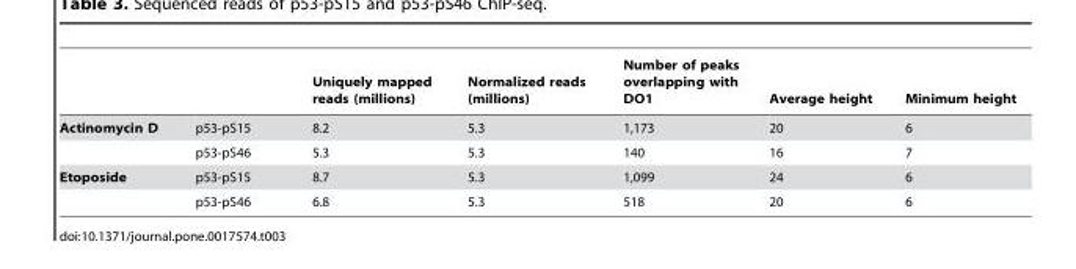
<table><thead><tr><td></td><td></td><td>Uniquely mapped reads (millions)</td><td>Normalized reads (millions)</td><td>Number of peaks overlapping with DO1</td><td>Average height</td><td>Minimum height</td></tr></thead><tbody><tr><td rowspan="2">Actinomycin D</td><td>p53-pS15</td><td>8.2</td><td>5.3</td><td>1,173</td><td>20</td><td>6</td></tr><tr><td>p53-pS46</td><td>5.3</td><td>5.3</td><td>140</td><td>16</td><td>7</td></tr><tr><td rowspan="2">Etoposide</td><td>p53-pS15</td><td>8.7</td><td>5.3</td><td>1,099</td><td>24</td><td>6</td></tr><tr><td>p53-pS46</td><td>6.8</td><td>5.3</td><td>518</td><td>20</td><td>6</td></tr></tbody></table>